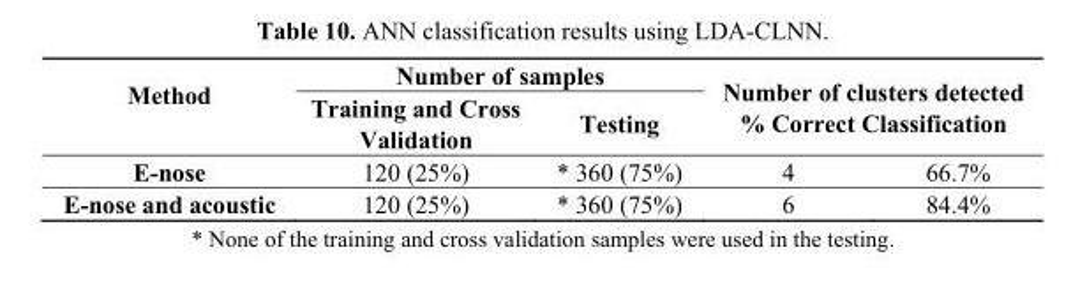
<table><thead><tr><td rowspan="3">Method E-nose</td><td colspan="2">Number of samples</td><td rowspan="2" colspan="2">Number of clusters detected % Correct Classification</td></tr><tr><td rowspan="2">Training and Cross Validation 120 (25%)</td><td rowspan="2">Testing * 360 (75%)</td></tr><tr><td>4</td><td>66.7%</td></tr></thead><tbody><tr><td>E-nose and acoustic</td><td>120 (25%)</td><td>* 360 (75%)</td><td>6</td><td>84.4%</td></tr></tbody></table>